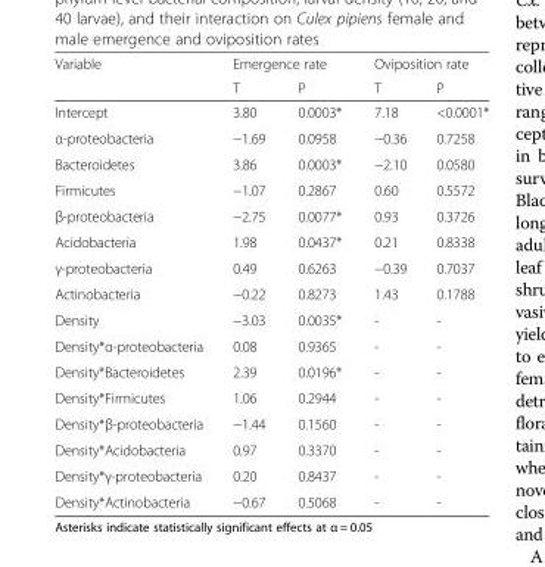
<table><thead><tr><td rowspan="2">Variable</td><td colspan="2">Emergence rate</td><td colspan="2">Oviposition rate</td></tr><tr><td>T</td><td>P</td><td>T</td><td>P</td></tr></thead><tbody><tr><td>Intercept</td><td>3.80</td><td>0.0003*</td><td>7.18</td><td>&lt;0.0001*</td></tr><tr><td>α-proteobacteria</td><td>−1.69</td><td>0.0958</td><td>−0.36</td><td>0.7258</td></tr><tr><td>Bacteroidetes</td><td>3.86</td><td>0.0003*</td><td>−2.10</td><td>0.0580</td></tr><tr><td>Firmicutes</td><td>−1.07</td><td>0.2867</td><td>0.60</td><td>0.5572</td></tr><tr><td>β-proteobacteria</td><td>−2.75</td><td>0.0077*</td><td>0.93</td><td>0.3726</td></tr><tr><td>Acidobacteria</td><td>1.98</td><td>0.0437*</td><td>0.21</td><td>0.8338</td></tr><tr><td>γ-proteobacteria</td><td>0.49</td><td>0.6263</td><td>−0.39</td><td>0.7037</td></tr><tr><td>Actinobacteria</td><td>−0.22</td><td>0.8273</td><td>1.43</td><td>0.1788</td></tr><tr><td>Density</td><td>−3.03</td><td>0.0035*</td><td>-</td><td>-</td></tr><tr><td>Density*α-proteobacteria</td><td>0.08</td><td>0.9365</td><td>-</td><td>-</td></tr><tr><td>Density*Bacteroidetes</td><td>2.39</td><td>0.0196*</td><td>-</td><td>-</td></tr><tr><td>Density*Firmicutes</td><td>1.06</td><td>0.2944</td><td>-</td><td>-</td></tr><tr><td>Density*β-proteobacteria</td><td>−1.44</td><td>0.1560</td><td>-</td><td>-</td></tr><tr><td>Density*Acidobacteria</td><td>0.97</td><td>0.3370</td><td>-</td><td>-</td></tr><tr><td>Density*γ-proteobacteria</td><td>0.20</td><td>0.8437</td><td>-</td><td>-</td></tr><tr><td>Density*Actinobacteria</td><td>−0.67</td><td>0.5068</td><td>-</td><td>-</td></tr></tbody></table>